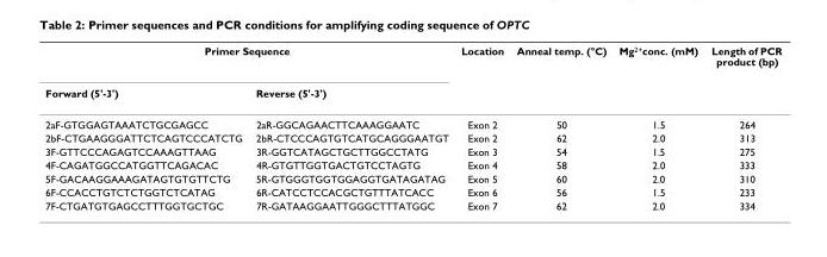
<table><thead><tr><td colspan="2">Primer Sequence</td><td rowspan="2">Location</td><td rowspan="2">Anneal temp. (°C)</td><td rowspan="2">Mg2+conc. (mM)</td><td rowspan="2">Length of PCR product (bp)</td></tr><tr><td>Forward (5&#x27;-3&#x27;)</td><td>Reverse (5&#x27;-3&#x27;)</td></tr></thead><tbody><tr><td>2aF-GTGGAGTAAATCTGCGAGCC</td><td>2aR-GGCAGAACTTCAAAGGAATC</td><td>Exon 2</td><td>50</td><td>1.5</td><td>264</td></tr><tr><td>2bF-CTGAAGGGATTCTCAGTCCCATCTG</td><td>2bR-CTCCCAGTGTCATGCAGGGAATGT</td><td>Exon 2</td><td>62</td><td>2.0</td><td>313</td></tr><tr><td>3F-GTTCCCAGAGTCCAAAGTTAAG</td><td>3R-GGTCATAGCTGCTTGGCCTATG</td><td>Exon 3</td><td>54</td><td>1.5</td><td>275</td></tr><tr><td>4F-CAGATGGCCATGGTTCAGACAC</td><td>4R-GTGTTGGTGACTGTCCTAGTG</td><td>Exon 4</td><td>58</td><td>2.0</td><td>333</td></tr><tr><td>5F-GACAAGGAAAGATAGTGTGTTCTG</td><td>5R-GTGGGTGGTGGAGGTGATAGATAG</td><td>Exon 5</td><td>60</td><td>2.0</td><td>310</td></tr><tr><td>6F-CCACCTGTCTCTGGTCTCATAG</td><td>6R-CATCCTCCACGCTGTTTATCACC</td><td>Exon 6</td><td>56</td><td>1.5</td><td>233</td></tr><tr><td>7F-CTGATGTGAGCCTTTGGTGCTGC</td><td>7R-GATAAGGAATTGGGCTTTATGGC</td><td>Exon 7</td><td>62</td><td>2.0</td><td>334</td></tr></tbody></table>